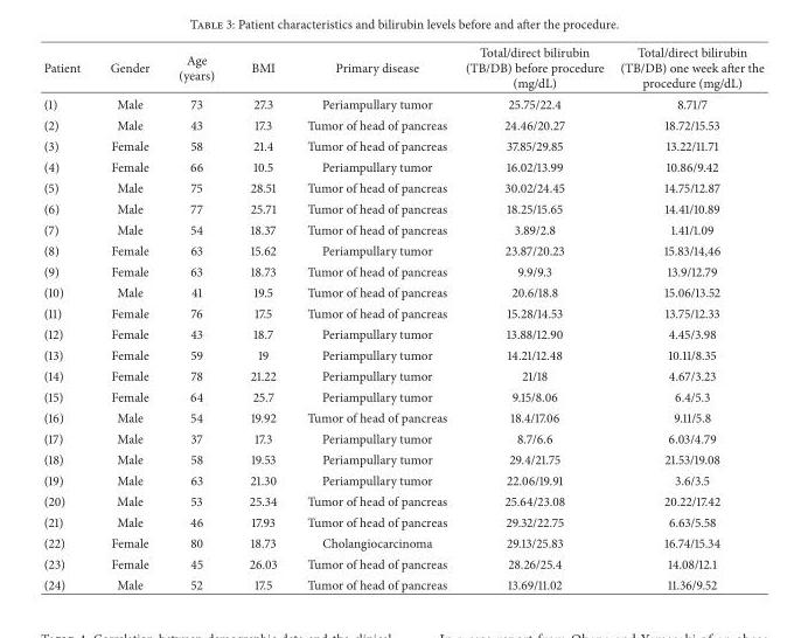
<table><thead><tr><td>Patient</td><td>Gender</td><td>Age (years)</td><td>BMI</td><td>Primary disease</td><td>Total/direct bilirubin (TB/DB) before procedure (mg/dL)</td><td>Total/direct bilirubin (TB/DB) one week after the procedure (mg/dL)</td></tr></thead><tbody><tr><td>(1)</td><td>Male</td><td>73</td><td>27.3</td><td>Periampullary tumor</td><td>25.75/22.4</td><td>8.71/7</td></tr><tr><td>(2)</td><td>Male</td><td>43</td><td>17.3</td><td>Tumor of head of pancreas</td><td>24.46/20.27</td><td>18.72/15.53</td></tr><tr><td>(3)</td><td>Female</td><td>58</td><td>21.4</td><td>Tumor of head of pancreas</td><td>37.85/29.85</td><td>13.22/11.71</td></tr><tr><td>(4)</td><td>Female</td><td>66</td><td>10.5</td><td>Periampullary tumor</td><td>16.02/13.99</td><td>10.86/9.42</td></tr><tr><td>(5)</td><td>Male</td><td>75</td><td>28.51</td><td>Tumor of head of pancreas</td><td>30.02/24.45</td><td>14.75/12.87</td></tr><tr><td>(6)</td><td>Male</td><td>77</td><td>25.71</td><td>Tumor of head of pancreas</td><td>18.25/15.65</td><td>14.41/10.89</td></tr><tr><td>(7)</td><td>Male</td><td>54</td><td>18.37</td><td>Tumor of head of pancreas</td><td>3.89/2.8</td><td>1.41/1.09</td></tr><tr><td>(8)</td><td>Female</td><td>63</td><td>15.62</td><td>Periampullary tumor</td><td>23.87/20.23</td><td>15.83/14,46</td></tr><tr><td>(9)</td><td>Female</td><td>63</td><td>18.73</td><td>Tumor of head of pancreas</td><td>9.9/9.3</td><td>13.9/12.79</td></tr><tr><td>(10)</td><td>Male</td><td>41</td><td>19.5</td><td>Tumor of head of pancreas</td><td>20.6/18.8</td><td>15.06/13.52</td></tr><tr><td>(11)</td><td>Female</td><td>76</td><td>17.5</td><td>Tumor of head of pancreas</td><td>15.28/14.53</td><td>13.75/12.33</td></tr><tr><td>(12)</td><td>Female</td><td>43</td><td>18.7</td><td>Periampullary tumor</td><td>13.88/12.90</td><td>4.45/3.98</td></tr><tr><td>(13)</td><td>Female</td><td>59</td><td>19</td><td>Periampullary tumor</td><td>14.21/12.48</td><td>10.11/8.35</td></tr><tr><td>(14)</td><td>Female</td><td>78</td><td>21.22</td><td>Periampullary tumor</td><td>21/18</td><td>4.67/3.23</td></tr><tr><td>(15)</td><td>Female</td><td>64</td><td>25.7</td><td>Periampullary tumor</td><td>9.15/8.06</td><td>6.4/5.3</td></tr><tr><td>(16)</td><td>Male</td><td>54</td><td>19.92</td><td>Tumor of head of pancreas</td><td>18.4/17.06</td><td>9.11/5.8</td></tr><tr><td>(17)</td><td>Male</td><td>37</td><td>17.3</td><td>Periampullary tumor</td><td>8.7/6.6</td><td>6.03/4.79</td></tr><tr><td>(18)</td><td>Male</td><td>58</td><td>19.53</td><td>Periampullary tumor</td><td>29.4/21.75</td><td>21.53/19.08</td></tr><tr><td>(19)</td><td>Male</td><td>63</td><td>21.30</td><td>Periampullary tumor</td><td>22.06/19.91</td><td>3.6/3.5</td></tr><tr><td>(20)</td><td>Male</td><td>53</td><td>25.34</td><td>Tumor of head of pancreas</td><td>25.64/23.08</td><td>20.22/17.42</td></tr><tr><td>(21)</td><td>Male</td><td>46</td><td>17.93</td><td>Tumor of head of pancreas</td><td>29.32/22.75</td><td>6.63/5.58</td></tr><tr><td>(22)</td><td>Female</td><td>80</td><td>18.73</td><td>Cholangiocarcinoma</td><td>29.13/25.83</td><td>16.74/15.34</td></tr><tr><td>(23)</td><td>Female</td><td>45</td><td>26.03</td><td>Tumor of head of pancreas</td><td>28.26/25.4</td><td>14.08/12.1</td></tr><tr><td>(24)</td><td>Male</td><td>52</td><td>17.5</td><td>Tumor of head of pancreas</td><td>13.69/11.02</td><td>11.36/9.52</td></tr></tbody></table>